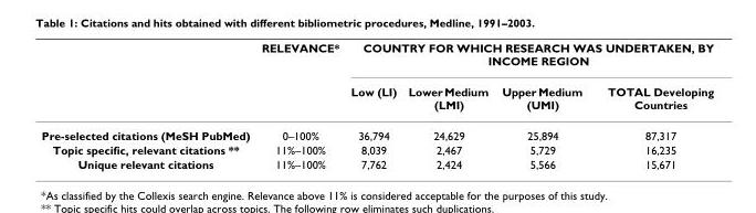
<table><thead><tr><td rowspan="2"></td><td rowspan="2">RELEVANCE*</td><td colspan="4">COUNTRY FOR WHICH RESEARCH WAS UNDERTAKEN, BY INCOME REGION</td></tr><tr><td>Low (LI)</td><td>Lower Medium (LMI)</td><td>Upper Medium (UMI)</td><td>TOTAL Developing Countries</td></tr></thead><tbody><tr><td>Pre-selected citations (MeSH PubMed)</td><td>0–100%</td><td>36,794</td><td>24,629</td><td>25,894</td><td>87,317</td></tr><tr><td>Topic specific, relevant citations **</td><td>11%–100%</td><td>8,039</td><td>2,467</td><td>5,729</td><td>16,235</td></tr><tr><td>Unique relevant citations</td><td>11%–100%</td><td>7,762</td><td>2,424</td><td>5,566</td><td>15,671</td></tr></tbody></table>